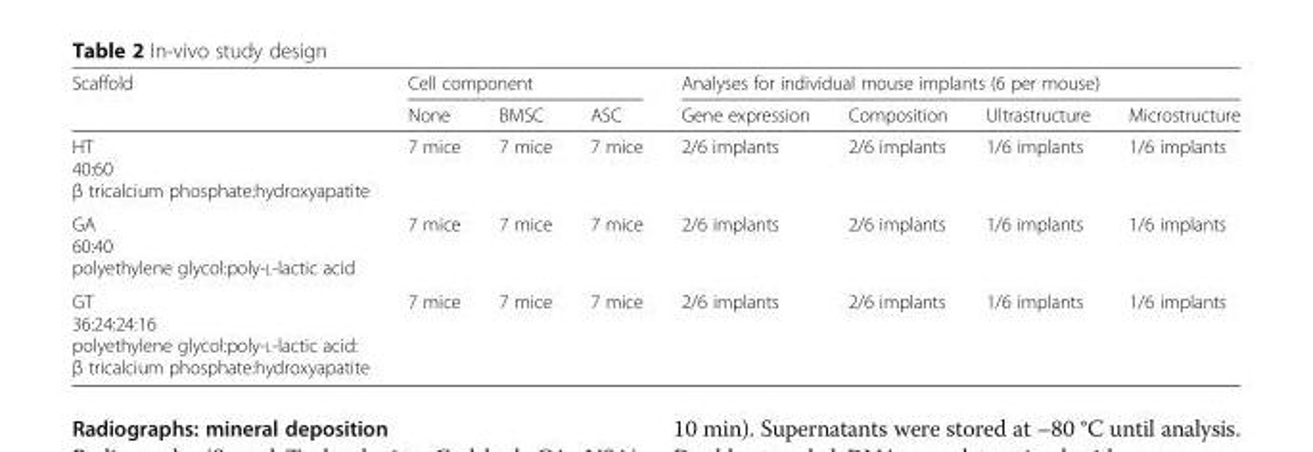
<table><thead><tr><td rowspan="2">Scaffold</td><td colspan="3">Cell component</td><td colspan="4">Analyses for individual mouse implants (6 per mouse)</td></tr><tr><td>None</td><td>BMSC</td><td>ASC</td><td>Gene expression</td><td>Composition</td><td>Ultrastructure</td><td>Microstructure</td></tr></thead><tbody><tr><td>HT 40:60 β tricalcium phosphate:hydroxyapatite</td><td>7 mice</td><td>7 mice</td><td>7 mice</td><td>2/6 implants</td><td>2/6 implants</td><td>1/6 implants</td><td>1/6 implants</td></tr><tr><td>GA 60:40 polyethylene glycol:poly-L-lactic acid</td><td>7 mice</td><td>7 mice</td><td>7 mice</td><td>2/6 implants</td><td>2/6 implants</td><td>1/6 implants</td><td>1/6 implants</td></tr><tr><td>GT 36:24:24:16 polyethylene glycol:poly-L-lactic acid: β tricalcium phosphate:hydroxyapatite</td><td>7 mice</td><td>7 mice</td><td>7 mice</td><td>2/6 implants</td><td>2/6 implants</td><td>1/6 implants</td><td>1/6 implants</td></tr></tbody></table>